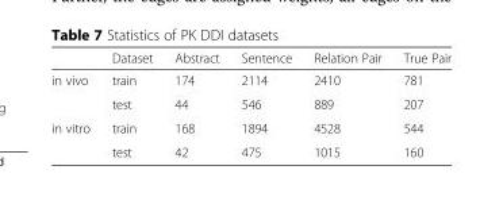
<table><thead><tr><td></td><td>Dataset</td><td>Abstract</td><td>Sentence</td><td>Relation Pair</td><td>True Pair</td></tr></thead><tbody><tr><td rowspan="2">in vivo</td><td>train</td><td>174</td><td>2114</td><td>2410</td><td>781</td></tr><tr><td>test</td><td>44</td><td>546</td><td>889</td><td>207</td></tr><tr><td rowspan="2">in vitro</td><td>train</td><td>168</td><td>1894</td><td>4528</td><td>544</td></tr><tr><td>test</td><td>42</td><td>475</td><td>1015</td><td>160</td></tr></tbody></table>